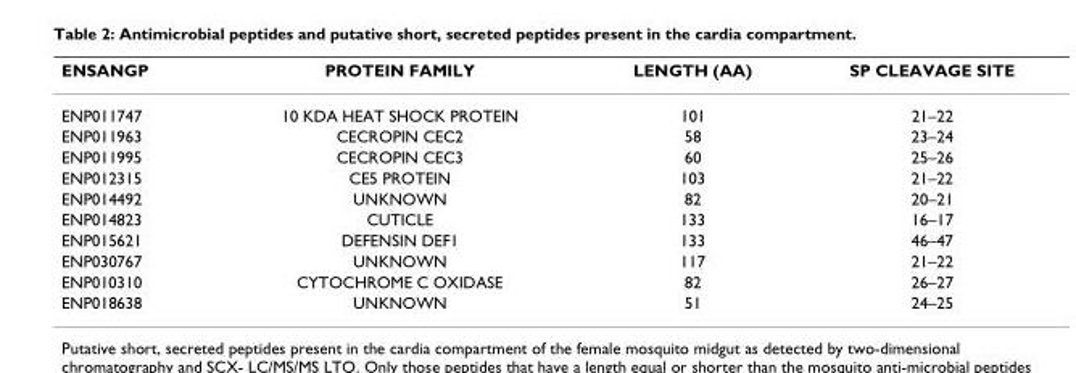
<table><thead><tr><td>ENSANGP</td><td>PROTEIN FAMILY</td><td>LENGTH (AA)</td><td>SP CLEAVAGE SITE</td></tr></thead><tbody><tr><td>ENP011747</td><td>10 KDA HEAT SHOCK PROTEIN</td><td>101</td><td>21–22</td></tr><tr><td>ENP011963</td><td>CECROPIN CEC2</td><td>58</td><td>23–24</td></tr><tr><td>ENP011995</td><td>CECROPIN CEC3</td><td>60</td><td>25–26</td></tr><tr><td>ENP012315</td><td>CE5 PROTEIN</td><td>103</td><td>21–22</td></tr><tr><td>ENP014492</td><td>UNKNOWN</td><td>82</td><td>20–21</td></tr><tr><td>ENP014823</td><td>CUTICLE</td><td>133</td><td>16–17</td></tr><tr><td>ENP015621</td><td>DEFENSIN DEF1</td><td>133</td><td>46–47</td></tr><tr><td>ENP030767</td><td>UNKNOWN</td><td>117</td><td>21–22</td></tr><tr><td>ENP010310</td><td>CYTOCHROME C OXIDASE</td><td>82</td><td>26–27</td></tr><tr><td>ENP018638</td><td>UNKNOWN</td><td>51</td><td>24–25</td></tr></tbody></table>